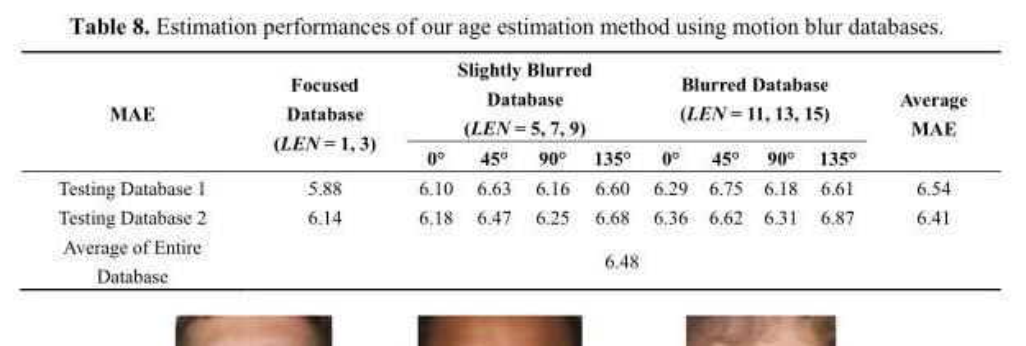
<table><thead><tr><td rowspan="2">MAE</td><td rowspan="2">Focused Database (LEN = 1, 3)</td><td colspan="4">Slightly Blurred Database (LEN = 5, 7, 9)</td><td colspan="4">Blurred Database (LEN = 11, 13, 15)</td><td rowspan="2">Average MAE</td></tr><tr><td>0°</td><td>45°</td><td>90°</td><td>135°</td><td>0°</td><td>45°</td><td>90°</td><td>135°</td></tr></thead><tbody><tr><td>Testing Database 1</td><td>5.88</td><td>6.10</td><td>6.63</td><td>6.16</td><td>6.60</td><td>6.29</td><td>6.75</td><td>6.18</td><td>6.61</td><td>6.54</td></tr><tr><td>Testing Database 2</td><td>6.14</td><td>6.18</td><td>6.47</td><td>6.25</td><td>6.68</td><td>6.36</td><td>6.62</td><td>6.31</td><td>6.87</td><td>6.41</td></tr><tr><td>Average of Entire Database</td><td colspan="10">6.48</td></tr></tbody></table>